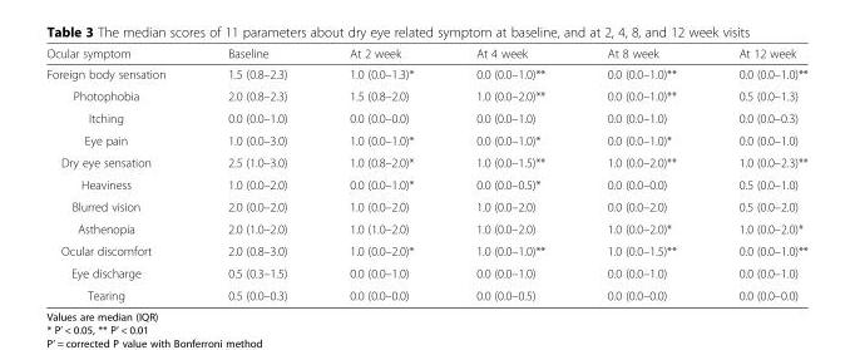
<table><thead><tr><td>Ocular symptom</td><td>Baseline</td><td>At 2 week</td><td>At 4 week</td><td>At 8 week</td><td>At 12 week</td></tr></thead><tbody><tr><td>Foreign body sensation</td><td>1.5 (0.8–2.3)</td><td>1.0 (0.0–1.3)*</td><td>0.0 (0.0–1.0)**</td><td>0.0 (0.0–1.0)**</td><td>0.0 (0.0–1.0)**</td></tr><tr><td>Photophobia</td><td>2.0 (0.8–2.3)</td><td>1.5 (0.8–2.0)</td><td>1.0 (0.0–2.0)**</td><td>0.0 (0.0–1.0)**</td><td>0.5 (0.0–1.3)</td></tr><tr><td>Itching</td><td>0.0 (0.0–1.0)</td><td>0.0 (0.0–0.0)</td><td>0.0 (0.0–1.0)</td><td>0.0 (0.0–1.0)</td><td>0.0 (0.0–0.3)</td></tr><tr><td>Eye pain</td><td>1.0 (0.0–3.0)</td><td>1.0 (0.0–1.0)*</td><td>0.0 (0.0–1.0)*</td><td>0.0 (0.0–1.0)*</td><td>0.0 (0.0–1.0)</td></tr><tr><td>Dry eye sensation</td><td>2.5 (1.0–3.0)</td><td>1.0 (0.8–2.0)*</td><td>1.0 (0.0–1.5)**</td><td>1.0 (0.0–2.0)**</td><td>1.0 (0.0–2.3)**</td></tr><tr><td>Heaviness</td><td>1.0 (0.0–2.0)</td><td>0.0 (0.0–1.0)*</td><td>0.0 (0.0–0.5)*</td><td>0.0 (0.0–0.0)</td><td>0.5 (0.0–1.0)</td></tr><tr><td>Blurred vision</td><td>2.0 (0.0–2.0)</td><td>1.0 (0.0–2.0)</td><td>1.0 (0.0–2.0)</td><td>0.0 (0.0–2.0)</td><td>0.5 (0.0–2.0)</td></tr><tr><td>Asthenopia</td><td>2.0 (1.0–2.0)</td><td>1.0 (1.0–2.0)</td><td>1.0 (0.0–2.0)</td><td>1.0 (0.0–2.0)*</td><td>1.0 (0.0–2.0)*</td></tr><tr><td>Ocular discomfort</td><td>2.0 (0.8–3.0)</td><td>1.0 (0.0–2.0)*</td><td>1.0 (0.0–1.0)**</td><td>1.0 (0.0–1.5)**</td><td>0.0 (0.0–1.0)**</td></tr><tr><td>Eye discharge</td><td>0.5 (0.3–1.5)</td><td>0.0 (0.0–1.0)</td><td>0.0 (0.0–1.0)</td><td>0.0 (0.0–1.0)</td><td>0.0 (0.0–1.0)</td></tr><tr><td>Tearing</td><td>0.5 (0.0–0.3)</td><td>0.0 (0.0–0.0)</td><td>0.0 (0.0–0.5)</td><td>0.0 (0.0–0.0)</td><td>0.0 (0.0–0.0)</td></tr></tbody></table>